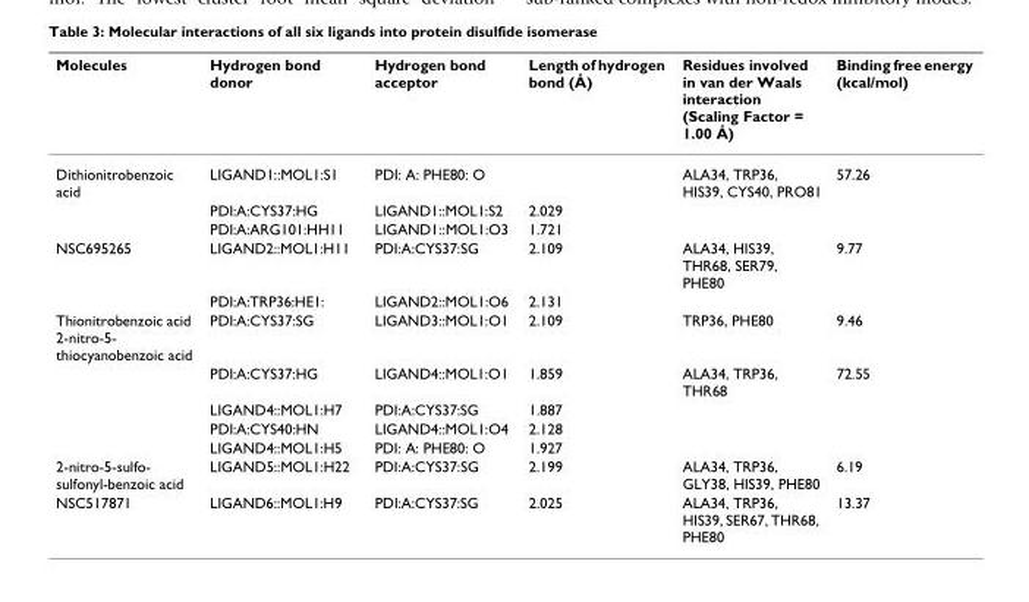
<table><thead><tr><td>Molecules</td><td>Hydrogen bond donor</td><td>Hydrogen bond acceptor</td><td>Length of hydrogen bond (Å)</td><td>Residues involved in van der Waals interaction (Scaling Factor = 1.00 Å)</td><td>Binding free energy (kcal/mol)</td></tr></thead><tbody><tr><td rowspan="3">Dithionitrobenzoic acid</td><td>LIGAND1::MOL1:S1</td><td>PDI: A: PHE80: O</td><td></td><td>ALA34, TRP36, HIS39, CYS40, PRO81</td><td>57.26</td></tr><tr><td>PDI:A:CYS37:HG</td><td>LIGAND1::MOL1:S2</td><td>2.029</td><td></td><td></td></tr><tr><td>PDI:A:ARG101:HH11</td><td>LIGAND1::MOL1:O3</td><td>1.721</td><td></td><td></td></tr><tr><td rowspan="2">NSC695265</td><td>LIGAND2::MOL1:H11</td><td>PDI:A:CYS37:SG</td><td>2.109</td><td>ALA34, HIS39, THR68, SER79, PHE80</td><td>9.77</td></tr><tr><td>PDI:A:TRP36:HE1:</td><td>LIGAND2::MOL1:O6</td><td>2.131</td><td></td><td></td></tr><tr><td rowspan="5">Thionitrobenzoic acid 2-nitro-5- thiocyanobenzoic acid</td><td>PDI:A:CYS37:SG</td><td>LIGAND3::MOL1:O1</td><td>2.109</td><td>TRP36, PHE80</td><td>9.46</td></tr><tr><td>PDI:A:CYS37:HG</td><td>LIGAND4::MOL1:O1</td><td>1.859</td><td>ALA34, TRP36, THR68</td><td>72.55</td></tr><tr><td>LIGAND4::MOL1:H7</td><td>PDI:A:CYS37:SG</td><td>1.887</td><td></td><td></td></tr><tr><td>PDI:A:CYS40:HN</td><td>LIGAND4::MOL1:O4</td><td>2.128</td><td></td><td></td></tr><tr><td>LIGAND4::MOL1:H5</td><td>PDI: A: PHE80: O</td><td>1.927</td><td></td><td></td></tr><tr><td>2-nitro-5-sulfo- sulfonyl-benzoic acid</td><td>LIGAND5::MOL1:H22</td><td>PDI:A:CYS37:SG</td><td>2.199</td><td>ALA34, TRP36, GLY38, HIS39, PHE80</td><td>6.19</td></tr><tr><td>NSC517871</td><td>LIGAND6::MOL1:H9</td><td>PDI:A:CYS37:SG</td><td>2.025</td><td>ALA34, TRP36, HIS39, SER67, THR68, PHE80</td><td>13.37</td></tr></tbody></table>